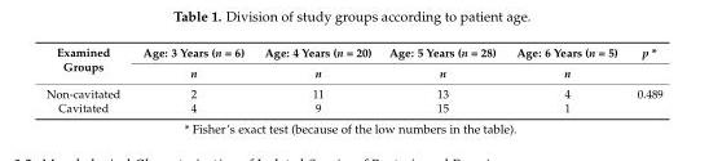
<table><thead><tr><td rowspan="2">Examined Groups</td><td rowspan="2">Age: 3 Years (n = 6) n</td><td rowspan="2">Age: 4 Years (n = 20) n</td><td rowspan="2">Age: 5 Years (n = 28) n</td><td rowspan="2">Age: 6 Years (n = 5) n</td><td rowspan="2">p *</td></tr><tr></tr></thead><tbody><tr><td>Non-cavitated</td><td>2</td><td>11</td><td>13</td><td>4</td><td>0.489</td></tr><tr><td>Cavitated</td><td>4</td><td>9</td><td>15</td><td>1</td><td></td></tr></tbody></table>